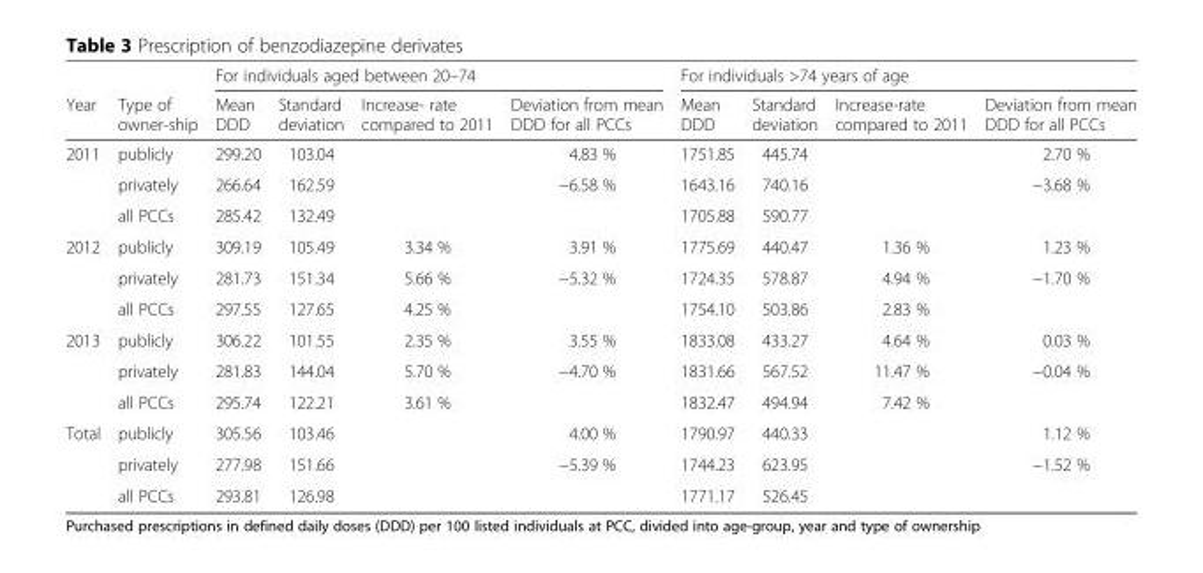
<table><thead><tr><td rowspan="2">Year</td><td rowspan="2">Type of owner-ship</td><td colspan="4">For individuals aged between 20–74</td><td colspan="4">For individuals &gt;74 years of age</td></tr><tr><td>Mean DDD</td><td>Standard deviation</td><td>Increase- rate compared to 2011</td><td>Deviation from mean DDD for all PCCs</td><td>Mean DDD</td><td>Standard deviation</td><td>Increase-rate compared to 2011</td><td>Deviation from mean DDD for all PCCs</td></tr></thead><tbody><tr><td rowspan="3">2011</td><td>publicly</td><td>299.20</td><td>103.04</td><td></td><td>4.83 %</td><td>1751.85</td><td>445.74</td><td></td><td>2.70 %</td></tr><tr><td>privately</td><td>266.64</td><td>162.59</td><td></td><td>−6.58 %</td><td>1643.16</td><td>740.16</td><td></td><td>−3.68 %</td></tr><tr><td>all PCCs</td><td>285.42</td><td>132.49</td><td></td><td></td><td>1705.88</td><td>590.77</td><td></td><td></td></tr><tr><td rowspan="3">2012</td><td>publicly</td><td>309.19</td><td>105.49</td><td>3.34 %</td><td>3.91 %</td><td>1775.69</td><td>440.47</td><td>1.36 %</td><td>1.23 %</td></tr><tr><td>privately</td><td>281.73</td><td>151.34</td><td>5.66 %</td><td>−5.32 %</td><td>1724.35</td><td>578.87</td><td>4.94 %</td><td>−1.70 %</td></tr><tr><td>all PCCs</td><td>297.55</td><td>127.65</td><td>4.25 %</td><td></td><td>1754.10</td><td>503.86</td><td>2.83 %</td><td></td></tr><tr><td rowspan="3">2013</td><td>publicly</td><td>306.22</td><td>101.55</td><td>2.35 %</td><td>3.55 %</td><td>1833.08</td><td>433.27</td><td>4.64 %</td><td>0.03 %</td></tr><tr><td>privately</td><td>281.83</td><td>144.04</td><td>5.70 %</td><td>−4.70 %</td><td>1831.66</td><td>567.52</td><td>11.47 %</td><td>−0.04 %</td></tr><tr><td>all PCCs</td><td>295.74</td><td>122.21</td><td>3.61 %</td><td></td><td>1832.47</td><td>494.94</td><td>7.42 %</td><td></td></tr><tr><td rowspan="3">Total</td><td>publicly</td><td>305.56</td><td>103.46</td><td></td><td>4.00 %</td><td>1790.97</td><td>440.33</td><td></td><td>1.12 %</td></tr><tr><td>privately</td><td>277.98</td><td>151.66</td><td></td><td>−5.39 %</td><td>1744.23</td><td>623.95</td><td></td><td>−1.52 %</td></tr><tr><td>all PCCs</td><td>293.81</td><td>126.98</td><td></td><td></td><td>1771.17</td><td>526.45</td><td></td><td></td></tr></tbody></table>